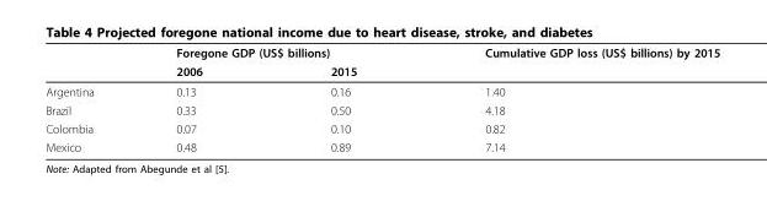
<table><thead><tr><td rowspan="2"></td><td colspan="2">Foregone GDP (US$ billions)</td><td rowspan="2">Cumulative GDP loss (US$ billions) by 2015</td></tr><tr><td>2006</td><td>2015</td></tr></thead><tbody><tr><td>Argentina</td><td>0.13</td><td>0.16</td><td>1.40</td></tr><tr><td>Brazil</td><td>0.33</td><td>0.50</td><td>4.18</td></tr><tr><td>Colombia</td><td>0.07</td><td>0.10</td><td>0.82</td></tr><tr><td>Mexico</td><td>0.48</td><td>0.89</td><td>7.14</td></tr></tbody></table>